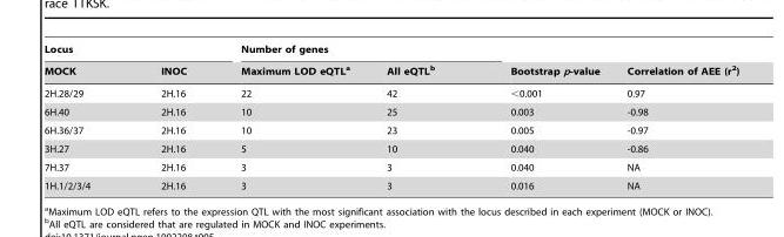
<table><thead><tr><td colspan="2">Locus</td><td colspan="2">Number of genes</td><td rowspan="2">Bootstrap p-value</td><td rowspan="2">Correlation of AEE (r<sup>2</sup>)</td></tr><tr><td>MOCK</td><td>INOC</td><td>Maximum LOD eQTL<sup>a</sup></td><td>All eQTL<sup>b</sup></td></tr></thead><tbody><tr><td>2H.28/29</td><td>2H.16</td><td>22</td><td>42</td><td>&lt;0.001</td><td>0.97</td></tr><tr><td>6H.40</td><td>2H.16</td><td>10</td><td>25</td><td>0.003</td><td>-0.98</td></tr><tr><td>6H.36/37</td><td>2H.16</td><td>10</td><td>23</td><td>0.005</td><td>-0.97</td></tr><tr><td>3H.27</td><td>2H.16</td><td>5</td><td>10</td><td>0.040</td><td>-0.86</td></tr><tr><td>7H.37</td><td>2H.16</td><td>3</td><td>3</td><td>0.040</td><td>NA</td></tr><tr><td>1H.1/2/3/4</td><td>2H.16</td><td>3</td><td>3</td><td>0.016</td><td>NA</td></tr></tbody></table>